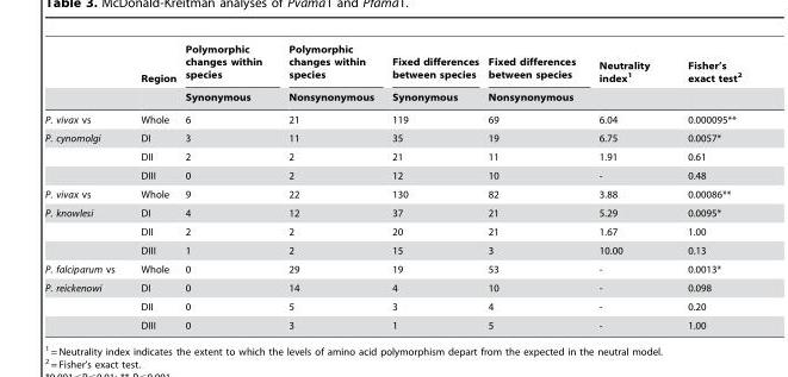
<table><thead><tr><td rowspan="2"></td><td rowspan="2">Region</td><td rowspan="2">Polymorphic changes within species Synonymous</td><td rowspan="2">Polymorphic changes within species Nonsynonymous</td><td rowspan="2">Fixed differences between species Synonymous</td><td rowspan="2">Fixed differences between species Nonsynonymous</td><td rowspan="2">Neutrality index<sup>1</sup></td><td rowspan="2">Fisher’s exact test<sup>2</sup></td></tr><tr></tr></thead><tbody><tr><td>P. vivax vs</td><td>Whole</td><td>6</td><td>21</td><td>119</td><td>69</td><td>6.04</td><td>0.000095**</td></tr><tr><td rowspan="3">P. cynomolgi</td><td>DI</td><td>3</td><td>11</td><td>35</td><td>19</td><td>6.75</td><td>0.0057*</td></tr><tr><td>DII</td><td>2</td><td>2</td><td>21</td><td>11</td><td>1.91</td><td>0.61</td></tr><tr><td>DIII</td><td>0</td><td>2</td><td>12</td><td>10</td><td>-</td><td>0.48</td></tr><tr><td>P. vivax vs</td><td>Whole</td><td>9</td><td>22</td><td>130</td><td>82</td><td>3.88</td><td>0.00086**</td></tr><tr><td rowspan="3">P. knowlesi</td><td>DI</td><td>4</td><td>12</td><td>37</td><td>21</td><td>5.29</td><td>0.0095*</td></tr><tr><td>DII</td><td>2</td><td>2</td><td>20</td><td>21</td><td>1.67</td><td>1.00</td></tr><tr><td>DIII</td><td>1</td><td>2</td><td>15</td><td>3</td><td>10.00</td><td>0.13</td></tr><tr><td>P. falciparum vs</td><td>Whole</td><td>0</td><td>29</td><td>19</td><td>53</td><td>-</td><td>0.0013*</td></tr><tr><td rowspan="3">P. reickenowi</td><td>DI</td><td>0</td><td>14</td><td>4</td><td>10</td><td>-</td><td>0.098</td></tr><tr><td>DII</td><td>0</td><td>5</td><td>3</td><td>4</td><td>-</td><td>0.20</td></tr><tr><td>DIII</td><td>0</td><td>3</td><td>1</td><td>5</td><td>-</td><td>1.00</td></tr></tbody></table>